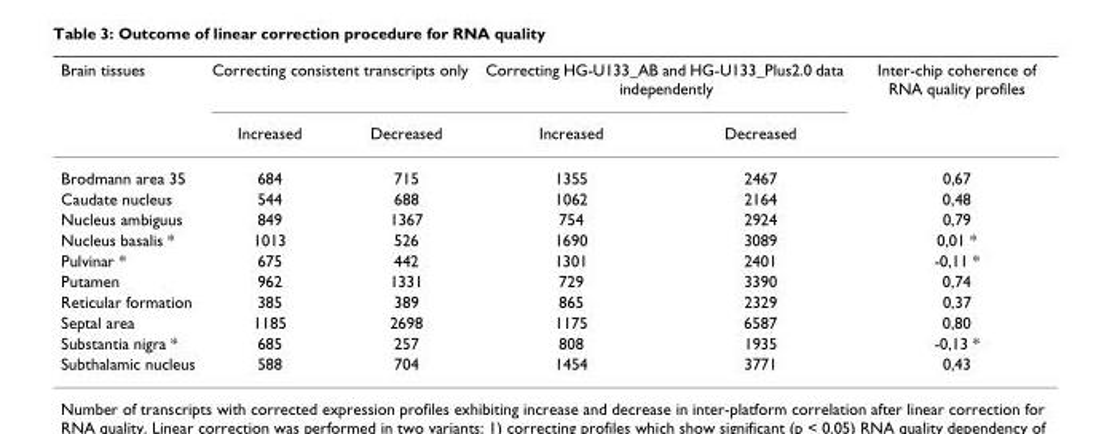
<table><thead><tr><td rowspan="2">Brain tissues</td><td colspan="2">Correcting consistent transcripts only</td><td colspan="2">Correcting HG-U133_AB and HG-U133_Plus2.0 data independently</td><td rowspan="2">Inter-chip coherence of RNA quality profiles</td></tr><tr><td>Increased</td><td>Decreased</td><td>Increased</td><td>Decreased</td></tr></thead><tbody><tr><td>Brodmann area 35</td><td>684</td><td>715</td><td>1355</td><td>2467</td><td>0,67</td></tr><tr><td>Caudate nucleus</td><td>544</td><td>688</td><td>1062</td><td>2164</td><td>0,48</td></tr><tr><td>Nucleus ambiguus</td><td>849</td><td>1367</td><td>754</td><td>2924</td><td>0,79</td></tr><tr><td>Nucleus basalis *</td><td>1013</td><td>526</td><td>1690</td><td>3089</td><td>0,01 *</td></tr><tr><td>Pulvinar *</td><td>675</td><td>442</td><td>1301</td><td>2401</td><td>-0,11 *</td></tr><tr><td>Putamen</td><td>962</td><td>1331</td><td>729</td><td>3390</td><td>0,74</td></tr><tr><td>Reticular formation</td><td>385</td><td>389</td><td>865</td><td>2329</td><td>0,37</td></tr><tr><td>Septal area</td><td>1185</td><td>2698</td><td>1175</td><td>6587</td><td>0,80</td></tr><tr><td>Substantia nigra *</td><td>685</td><td>257</td><td>808</td><td>1935</td><td>-0,13 *</td></tr><tr><td>Subthalamic nucleus</td><td>588</td><td>704</td><td>1454</td><td>3771</td><td>0,43</td></tr></tbody></table>